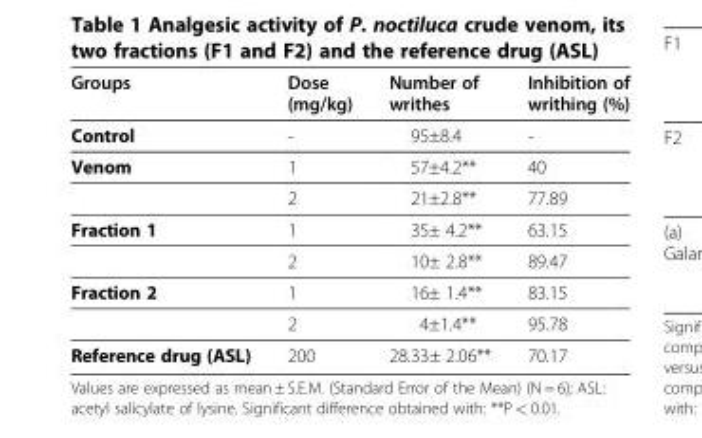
<table><thead><tr><td>Groups</td><td>Dose (mg/kg)</td><td>Number of writhes</td><td>Inhibition of writhing (%)</td></tr></thead><tbody><tr><td>Control</td><td>-</td><td>95±8.4</td><td>-</td></tr><tr><td rowspan="2">Venom</td><td>1</td><td>57±4.2**</td><td>40</td></tr><tr><td>2</td><td>21±2.8**</td><td>77.89</td></tr><tr><td rowspan="2">Fraction 1</td><td>1</td><td>35± 4.2**</td><td>63.15</td></tr><tr><td>2</td><td>10± 2.8**</td><td>89.47</td></tr><tr><td rowspan="2">Fraction 2</td><td>1</td><td>16± 1.4**</td><td>83.15</td></tr><tr><td>2</td><td>4±1.4**</td><td>95.78</td></tr><tr><td>Reference drug (ASL)</td><td>200</td><td>28.33± 2.06**</td><td>70.17</td></tr></tbody></table>